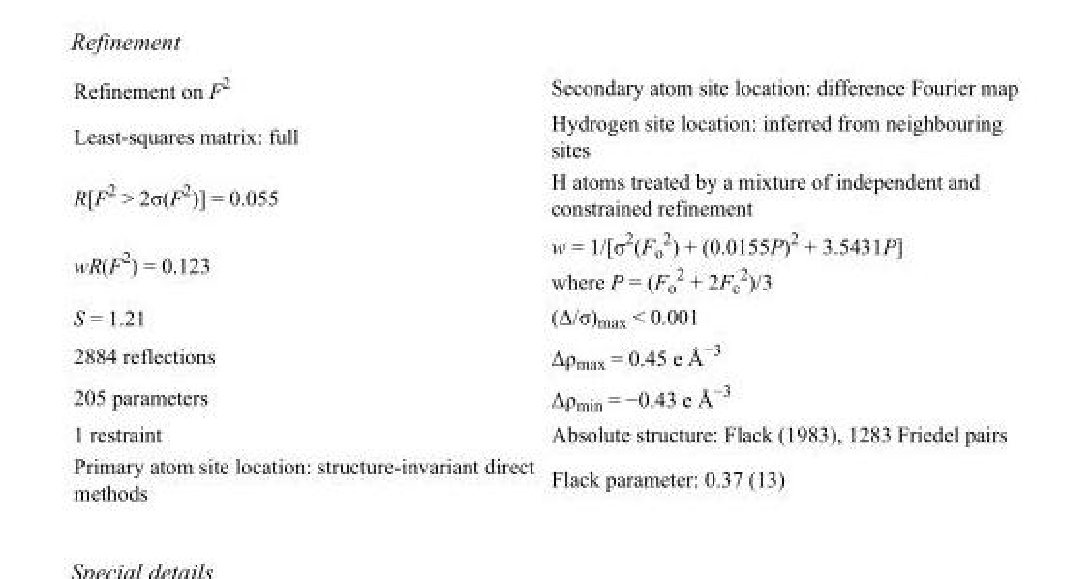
<table><tbody><tr><td>Refinement on F<sup>2</sup></td><td>Secondary atom site location: difference Fourier map</td></tr><tr><td>Least-squares matrix: full</td><td>Hydrogen site location: inferred from neighbouring sites</td></tr><tr><td>R[F<sup>2</sup> &gt; 2σ(F<sup>2</sup>)] = 0.055</td><td>H atoms treated by a mixture of independent and constrained refinement</td></tr><tr><td>wR(F<sup>2</sup>) = 0.123</td><td>w = 1/[σ<sup>2</sup>(F<sub>o</sub> <sup>2</sup>) + (0.0155P)<sup>2</sup> + 3.5431P] where P = (F<sub>o</sub> <sup>2</sup> + 2F<sub>c</sub> <sup>2</sup>)/3</td></tr><tr><td>S = 1.21</td><td>(Δ/σ)<sub>max</sub> &lt; 0.001</td></tr><tr><td>2884 reflections</td><td>Δρ<sub>max</sub> = 0.45 e Å<sup>−3</sup></td></tr><tr><td>205 parameters</td><td>Δρ<sub>min</sub> = −0.43 e Å<sup>−3</sup></td></tr><tr><td>1 restraint</td><td>Absolute structure: Flack (1983), 1283 Friedel pairs</td></tr><tr><td>Primary atom site location: structure-invariant direct methods</td><td>Flack parameter: 0.37 (13)</td></tr></tbody></table>